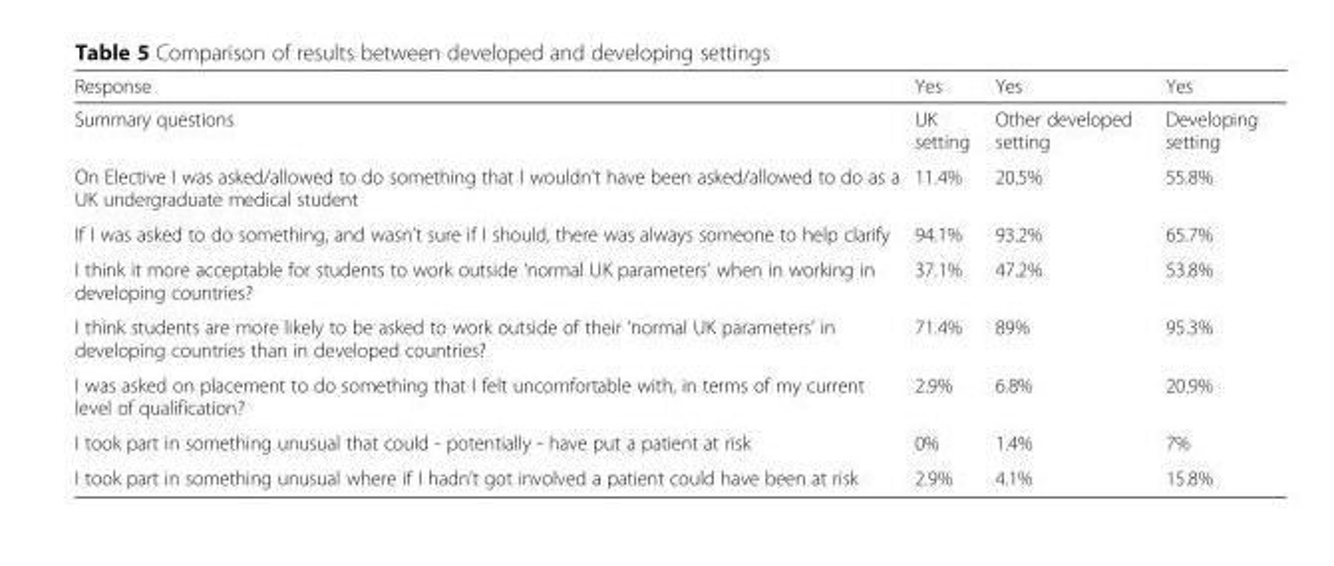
<table><thead><tr><td>Response</td><td>Yes</td><td>Yes</td><td>Yes</td></tr></thead><tbody><tr><td>Summary questions</td><td>UK setting</td><td>Other developed setting</td><td>Developing setting</td></tr><tr><td>On Elective I was asked/allowed to do something that I wouldn’t have been asked/allowed to do as a UK undergraduate medical student</td><td>11.4%</td><td>20.5%</td><td>55.8%</td></tr><tr><td>If I was asked to do something, and wasn’t sure if I should, there was always someone to help clarify</td><td>94.1%</td><td>93.2%</td><td>65.7%</td></tr><tr><td>I think it more acceptable for students to work outside ‘normal UK parameters’ when in working in developing countries?</td><td>37.1%</td><td>47.2%</td><td>53.8%</td></tr><tr><td>I think students are more likely to be asked to work outside of their ‘normal UK parameters’ in developing countries than in developed countries?</td><td>71.4%</td><td>89%</td><td>95.3%</td></tr><tr><td>I was asked on placement to do something that I felt uncomfortable with, in terms of my current level of qualification?</td><td>2.9%</td><td>6.8%</td><td>20.9%</td></tr><tr><td>I took part in something unusual that could - potentially - have put a patient at risk</td><td>0%</td><td>1.4%</td><td>7%</td></tr><tr><td>I took part in something unusual where if I hadn’t got involved a patient could have been at risk</td><td>2.9%</td><td>4.1%</td><td>15.8%</td></tr></tbody></table>